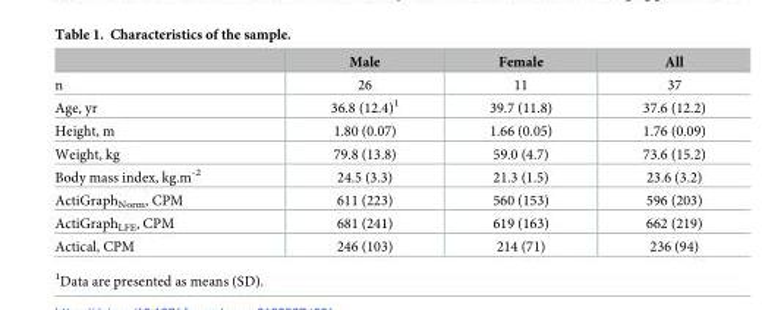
<table><thead><tr><td></td><td>Male</td><td>Female</td><td>All</td></tr></thead><tbody><tr><td>n</td><td>26</td><td>11</td><td>37</td></tr><tr><td>Age, yr</td><td>36.8 (12.4)<sup>1</sup></td><td>39.7 (11.8)</td><td>37.6 (12.2)</td></tr><tr><td>Height, m</td><td>1.80 (0.07)</td><td>1.66 (0.05)</td><td>1.76 (0.09)</td></tr><tr><td>Weight, kg</td><td>79.8 (13.8)</td><td>59.0 (4.7)</td><td>73.6 (15.2)</td></tr><tr><td>Body mass index, kg.m<sup>-2</sup></td><td>24.5 (3.3)</td><td>21.3 (1.5)</td><td>23.6 (3.2)</td></tr><tr><td>ActiGraph<sub>Norm</sub>, CPM</td><td>611 (223)</td><td>560 (153)</td><td>596 (203)</td></tr><tr><td>ActiGraph<sub>LFE</sub>, CPM</td><td>681 (241)</td><td>619 (163)</td><td>662 (219)</td></tr><tr><td>Actical, CPM</td><td>246 (103)</td><td>214 (71)</td><td>236 (94)</td></tr></tbody></table>